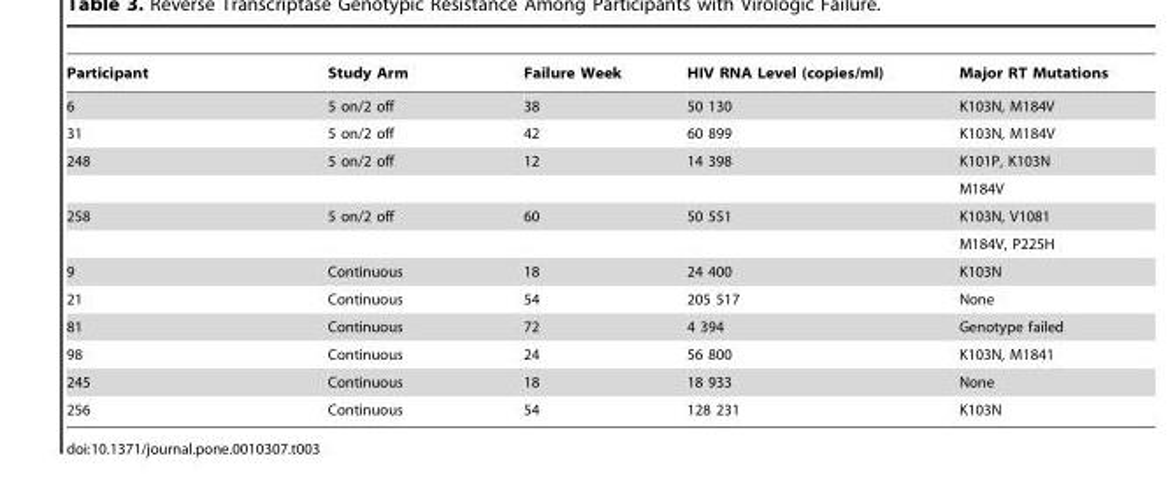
<table><thead><tr><td>Participant</td><td>Study Arm</td><td>Failure Week</td><td>HIV RNA Level (copies/ml)</td><td>Major RT Mutations</td></tr></thead><tbody><tr><td>6</td><td>5 on/2 off</td><td>38</td><td>50 130</td><td>K103N, M184V</td></tr><tr><td>31</td><td>5 on/2 off</td><td>42</td><td>60 899</td><td>K103N, M184V</td></tr><tr><td rowspan="2">248</td><td>5 on/2 off</td><td>12</td><td>14 398</td><td>K101P, K103N</td></tr><tr><td></td><td></td><td></td><td>M184V</td></tr><tr><td rowspan="2">258</td><td>5 on/2 off</td><td>60</td><td>50 551</td><td>K103N, V1081</td></tr><tr><td></td><td></td><td></td><td>M184V, P225H</td></tr><tr><td>9</td><td>Continuous</td><td>18</td><td>24 400</td><td>K103N</td></tr><tr><td>21</td><td>Continuous</td><td>54</td><td>205 517</td><td>None</td></tr><tr><td>81</td><td>Continuous</td><td>72</td><td>4 394</td><td>Genotype failed</td></tr><tr><td>98</td><td>Continuous</td><td>24</td><td>56 800</td><td>K103N, M1841</td></tr><tr><td>245</td><td>Continuous</td><td>18</td><td>18 933</td><td>None</td></tr><tr><td>256</td><td>Continuous</td><td>54</td><td>128 231</td><td>K103N</td></tr></tbody></table>